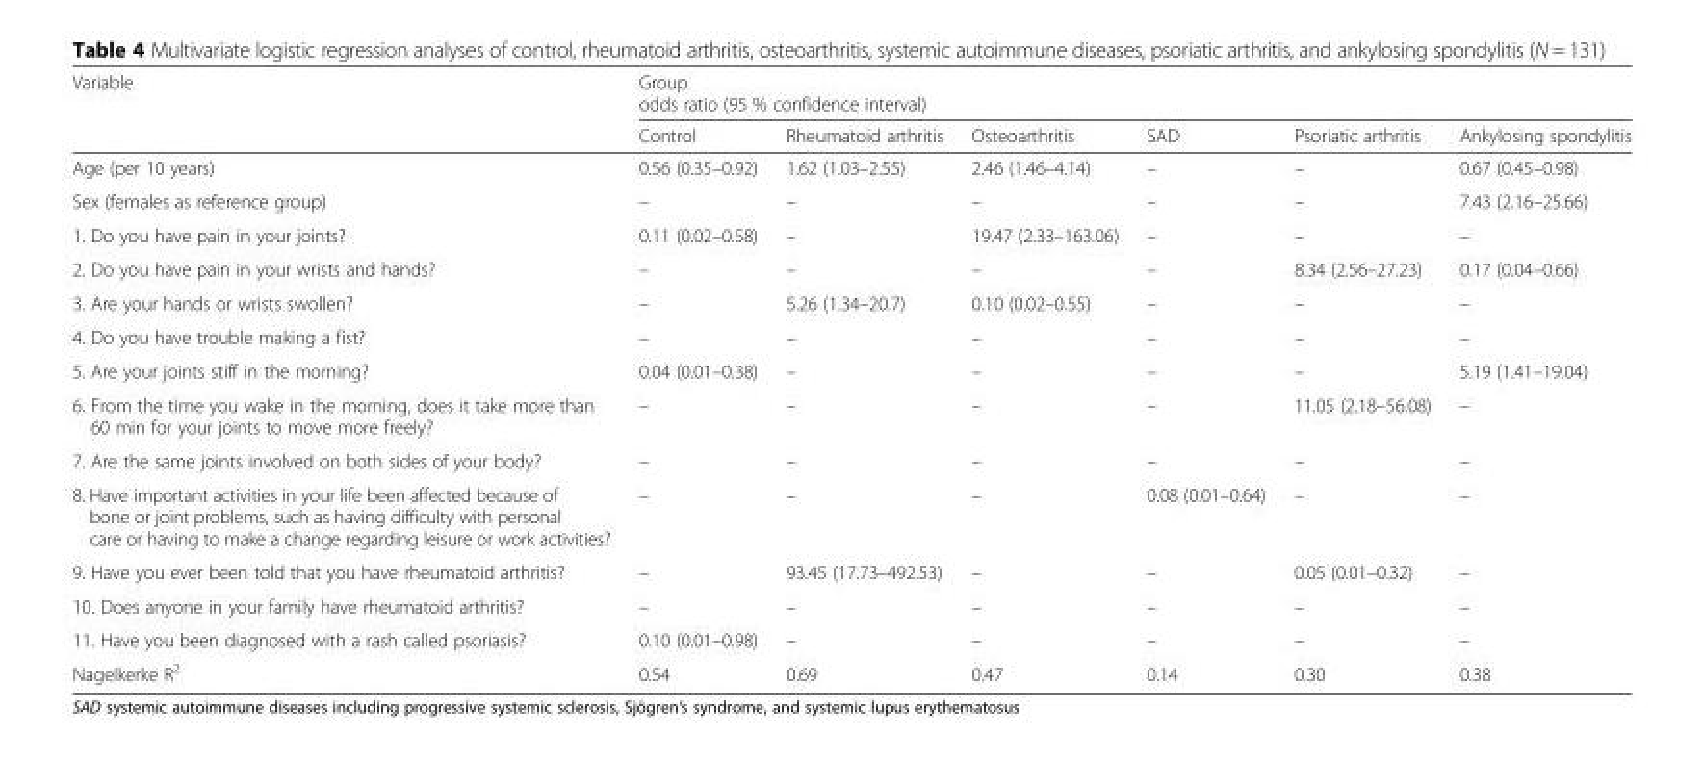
<table><thead><tr><td rowspan="3">Variable</td><td rowspan="2" colspan="6">Group odds ratio (95 % confidence interval)</td></tr><tr></tr><tr><td>Control</td><td>Rheumatoid arthritis</td><td>Osteoarthritis</td><td>SAD</td><td>Psoriatic arthritis</td><td>Ankylosing spondylitis</td></tr></thead><tbody><tr><td>Age (per 10 years)</td><td>0.56 (0.35–0.92)</td><td>1.62 (1.03–2.55)</td><td>2.46 (1.46–4.14)</td><td>–</td><td>–</td><td>0.67 (0.45–0.98)</td></tr><tr><td>Sex (females as reference group)</td><td>–</td><td>–</td><td>–</td><td>–</td><td>–</td><td>7.43 (2.16–25.66)</td></tr><tr><td>1. Do you have pain in your joints?</td><td>0.11 (0.02–0.58)</td><td>–</td><td>19.47 (2.33–163.06)</td><td>–</td><td>–</td><td>–</td></tr><tr><td>2. Do you have pain in your wrists and hands?</td><td>–</td><td>–</td><td>–</td><td>–</td><td>8.34 (2.56–27.23)</td><td>0.17 (0.04–0.66)</td></tr><tr><td>3. Are your hands or wrists swollen?</td><td>–</td><td>5.26 (1.34–20.7)</td><td>0.10 (0.02–0.55)</td><td>–</td><td>–</td><td>–</td></tr><tr><td>4. Do you have trouble making a fist?</td><td>–</td><td>–</td><td>–</td><td>–</td><td>–</td><td>–</td></tr><tr><td>5. Are your joints stiff in the morning?</td><td>0.04 (0.01–0.38)</td><td>–</td><td>–</td><td>–</td><td>–</td><td>5.19 (1.41–19.04)</td></tr><tr><td>6. From the time you wake in the morning, does it take more than 60 min for your joints to move more freely?</td><td>–</td><td>–</td><td>–</td><td>–</td><td>11.05 (2.18–56.08)</td><td>–</td></tr><tr><td>7. Are the same joints involved on both sides of your body?</td><td>–</td><td>–</td><td>–</td><td>–</td><td>–</td><td>–</td></tr><tr><td>8. Have important activities in your life been affected because of bone or joint problems, such as having difficulty with personal care or having to make a change regarding leisure or work activities?</td><td>–</td><td>–</td><td>–</td><td>0.08 (0.01–0.64)</td><td>–</td><td>–</td></tr><tr><td>9. Have you ever been told that you have rheumatoid arthritis?</td><td>–</td><td>93.45 (17.73–492.53)</td><td>–</td><td>–</td><td>0.05 (0.01–0.32)</td><td>–</td></tr><tr><td>10. Does anyone in your family have rheumatoid arthritis?</td><td>–</td><td>–</td><td>–</td><td>–</td><td>–</td><td>–</td></tr><tr><td>11. Have you been diagnosed with a rash called psoriasis?</td><td>0.10 (0.01–0.98)</td><td>–</td><td>–</td><td>–</td><td>–</td><td>–</td></tr><tr><td>Nagelkerke R<sup>2</sup></td><td>0.54</td><td>0.69</td><td>0.47</td><td>0.14</td><td>0.30</td><td>0.38</td></tr></tbody></table>